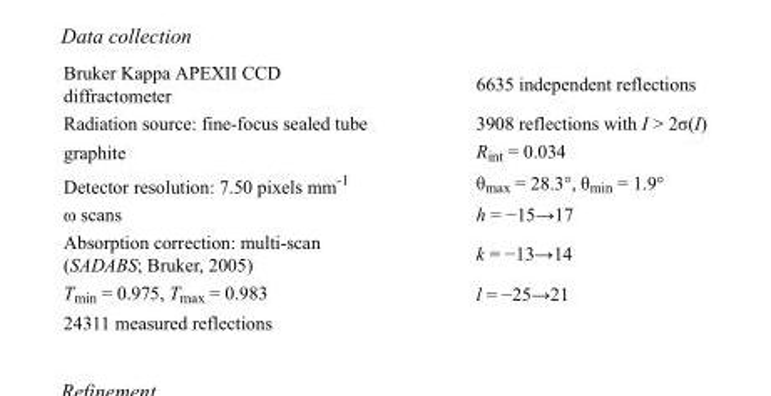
<table><tbody><tr><td>Bruker Kappa APEXII CCD diffractometer</td><td>6635 independent reflections</td></tr><tr><td>Radiation source: fine-focus sealed tube</td><td>3908 reflections with I &gt; 2σ(I)</td></tr><tr><td>graphite</td><td>R<sub>int</sub> = 0.034</td></tr><tr><td>Detector resolution: 7.50 pixels mm<sup>-1</sup></td><td>θ<sub>max</sub> = 28.3°, θ<sub>min</sub> = 1.9°</td></tr><tr><td>ω scans</td><td>h = −15→17</td></tr><tr><td>Absorption correction: multi-scan (SADABS; Bruker, 2005)</td><td>k = −13→14</td></tr><tr><td>T<sub>min</sub> = 0.975, T<sub>max</sub> = 0.983</td><td>l = −25→21</td></tr><tr><td>24311 measured reflections</td><td></td></tr></tbody></table>